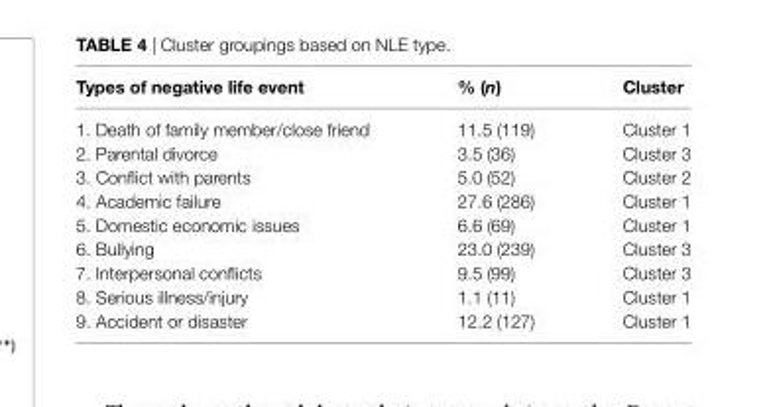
<table><thead><tr><td>Types of negative life event</td><td>% (n)</td><td>cluster</td></tr></thead><tbody><tr><td>1. Death of family member/close friend</td><td>11.5 (119)</td><td>Cluster 1</td></tr><tr><td>2. Parental divorce</td><td>3.5 (36)</td><td>Cluster 3</td></tr><tr><td>3. Conflict with parents</td><td>5.0 (52)</td><td>Cluster 2</td></tr><tr><td>4. Academic failure</td><td>27.6 (286)</td><td>Cluster 1</td></tr><tr><td>5. Domestic economic issues</td><td>6.6 (69)</td><td>Cluster 1</td></tr><tr><td>6. Bullying</td><td>23.0 (239)</td><td>Cluster 3</td></tr><tr><td>7. Interpersonal conflicts</td><td>9.5 (99)</td><td>Cluster 3</td></tr><tr><td>8. Serious illness/injury</td><td>1.1 (11)</td><td>Cluster 1</td></tr><tr><td>9. Accident or disaster</td><td>12.2 (127)</td><td>Cluster 1</td></tr></tbody></table>